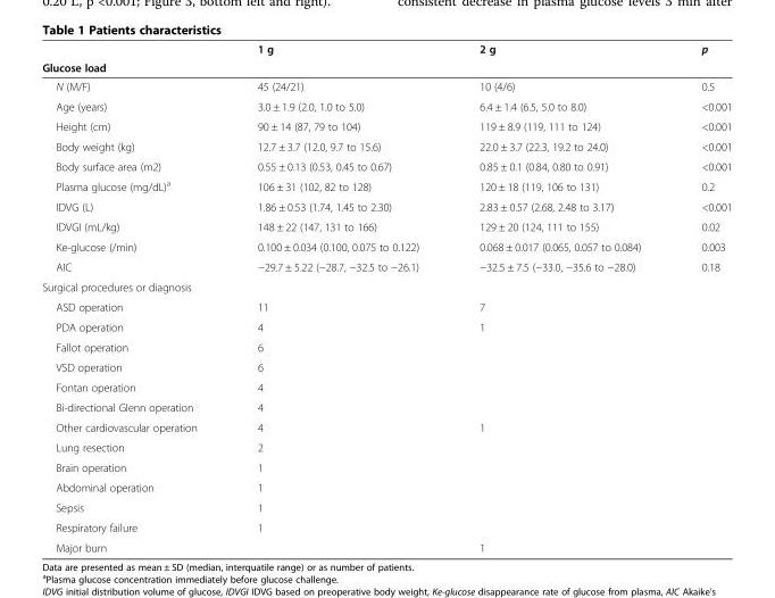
<table><thead><tr><td rowspan="2">Glucose load</td><td rowspan="2">1 g</td><td rowspan="2">2 g</td><td rowspan="2">p</td></tr><tr></tr></thead><tbody><tr><td>N (M/F)</td><td>45 (24/21)</td><td>10 (4/6)</td><td>0.5</td></tr><tr><td>Age (years)</td><td>3.0 ± 1.9 (2.0, 1.0 to 5.0)</td><td>6.4 ± 1.4 (6.5, 5.0 to 8.0)</td><td>&lt;0.001</td></tr><tr><td>Height (cm)</td><td>90 ± 14 (87, 79 to 104)</td><td>119 ± 8.9 (119, 111 to 124)</td><td>&lt;0.001</td></tr><tr><td>Body weight (kg)</td><td>12.7 ± 3.7 (12.0, 9.7 to 15.6)</td><td>22.0 ± 3.7 (22.3, 19.2 to 24.0)</td><td>&lt;0.001</td></tr><tr><td>Body surface area (m2)</td><td>0.55 ± 0.13 (0.53, 0.45 to 0.67)</td><td>0.85 ± 0.1 (0.84, 0.80 to 0.91)</td><td>&lt;0.001</td></tr><tr><td>Plasma glucose (mg/dL)<sup>a</sup></td><td>106 ± 31 (102, 82 to 128)</td><td>120 ± 18 (119, 106 to 131)</td><td>0.2</td></tr><tr><td>IDVG (L)</td><td>1.86 ± 0.53 (1.74, 1.45 to 2.30)</td><td>2.83 ± 0.57 (2.68, 2.48 to 3.17)</td><td>&lt;0.001</td></tr><tr><td>IDVGI (mL/kg)</td><td>148 ± 22 (147, 131 to 166)</td><td>129 ± 20 (124, 111 to 155)</td><td>0.02</td></tr><tr><td>Ke-glucose (/min)</td><td>0.100 ± 0.034 (0.100, 0.075 to 0.122)</td><td>0.068 ± 0.017 (0.065, 0.057 to 0.084)</td><td>0.003</td></tr><tr><td>AIC</td><td>−29.7 ± 5.22 (−28.7, −32.5 to −26.1)</td><td>−32.5 ± 7.5 (−33.0, −35.6 to −28.0)</td><td>0.18</td></tr><tr><td colspan="4">Surgical procedures or diagnosis</td></tr><tr><td>ASD operation</td><td>11</td><td>7</td><td></td></tr><tr><td>PDA operation</td><td>4</td><td>1</td><td></td></tr><tr><td>Fallot operation</td><td>6</td><td></td><td></td></tr><tr><td>VSD operation</td><td>6</td><td></td><td></td></tr><tr><td>Fontan operation</td><td>4</td><td></td><td></td></tr><tr><td>Bi-directional Glenn operation</td><td>4</td><td></td><td></td></tr><tr><td>Other cardiovascular operation</td><td>4</td><td>1</td><td></td></tr><tr><td>Lung resection</td><td>2</td><td></td><td></td></tr><tr><td>Brain operation</td><td>1</td><td></td><td></td></tr><tr><td>Abdominal operation</td><td>1</td><td></td><td></td></tr><tr><td>Sepsis</td><td>1</td><td></td><td></td></tr><tr><td>Respiratory failure</td><td>1</td><td></td><td></td></tr><tr><td>Major burn</td><td></td><td>1</td><td></td></tr></tbody></table>